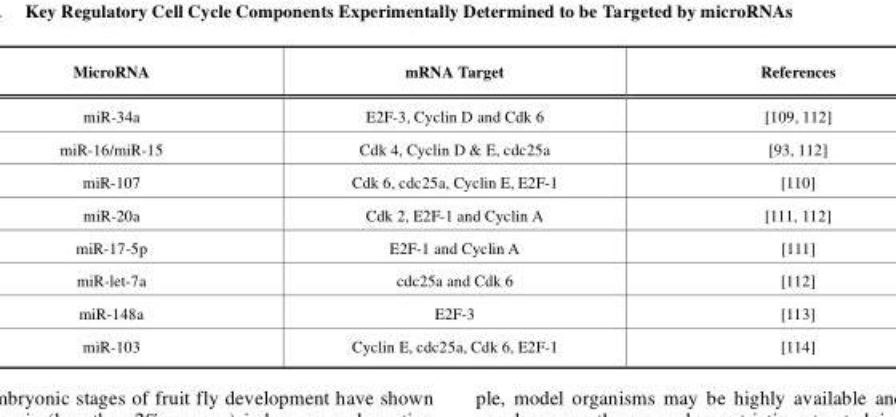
<table><thead><tr><td>MicroRNA</td><td>mRNA Target</td><td>References</td></tr></thead><tbody><tr><td>miR-34a</td><td>E2F-3, Cyclin D and Cdk 6</td><td>[109, 112]</td></tr><tr><td>miR-16/miR-15</td><td>Cdk 4, Cyclin D &amp; E, cdc25a</td><td>[93, 112]</td></tr><tr><td>miR-107</td><td>Cdk 6, cdc25a, Cyclin E, E2F-1</td><td>[110]</td></tr><tr><td>miR-20a</td><td>Cdk 2, E2F-1 and Cyclin A</td><td>[111, 112]</td></tr><tr><td>miR-17-5p</td><td>E2F-1 and Cyclin A</td><td>[111]</td></tr><tr><td>miR-let-7a</td><td>cdc25a and Cdk 6</td><td>[112]</td></tr><tr><td>miR-148a</td><td>E2F-3</td><td>[113]</td></tr><tr><td>miR-103</td><td>Cyclin E, cdc25a, Cdk 6, E2F-1</td><td>[114]</td></tr></tbody></table>